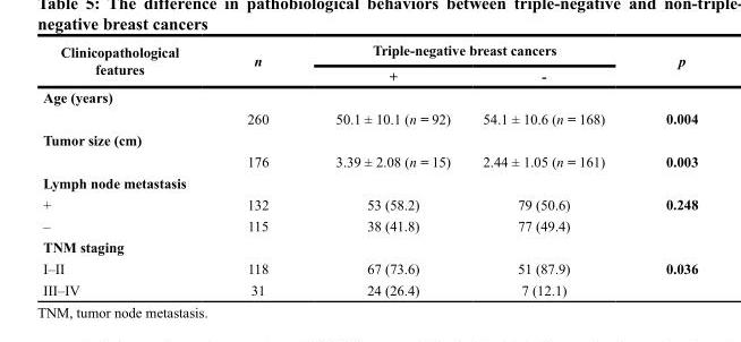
<table><thead><tr><td rowspan="2">Clinicopathological features</td><td rowspan="2">n</td><td colspan="2">Triple-negative breast cancers</td><td rowspan="2">p</td></tr><tr><td>+</td><td>-</td></tr></thead><tbody><tr><td colspan="5">Age (years)</td></tr><tr><td></td><td>260</td><td>50.1 ± 10.1 (n = 92)</td><td>54.1 ± 10.6 (n = 168)</td><td>0.004</td></tr><tr><td colspan="5">Tumor size (cm)</td></tr><tr><td></td><td>176</td><td>3.39 ± 2.08 (n = 15)</td><td>2.44 ± 1.05 (n = 161)</td><td>0.003</td></tr><tr><td colspan="5">Lymph node metastasis</td></tr><tr><td>+</td><td>132</td><td>53 (58.2)</td><td>79 (50.6)</td><td>0.248</td></tr><tr><td>–</td><td>115</td><td>38 (41.8)</td><td>77 (49.4)</td><td></td></tr><tr><td colspan="5">TNM staging</td></tr><tr><td>I–II</td><td>118</td><td>67 (73.6)</td><td>51 (87.9)</td><td>0.036</td></tr><tr><td>III–IV</td><td>31</td><td>24 (26.4)</td><td>7 (12.1)</td><td></td></tr></tbody></table>